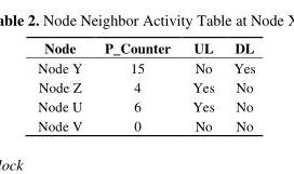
<table><thead><tr><td>Node</td><td>P_Counter</td><td>UL</td><td>DL</td></tr></thead><tbody><tr><td>Node Y</td><td>15</td><td>No</td><td>Yes</td></tr><tr><td>Node Z</td><td>4</td><td>Yes</td><td>No</td></tr><tr><td>Node U</td><td>6</td><td>Yes</td><td>No</td></tr><tr><td>Node V</td><td>0</td><td>No</td><td>No</td></tr></tbody></table>